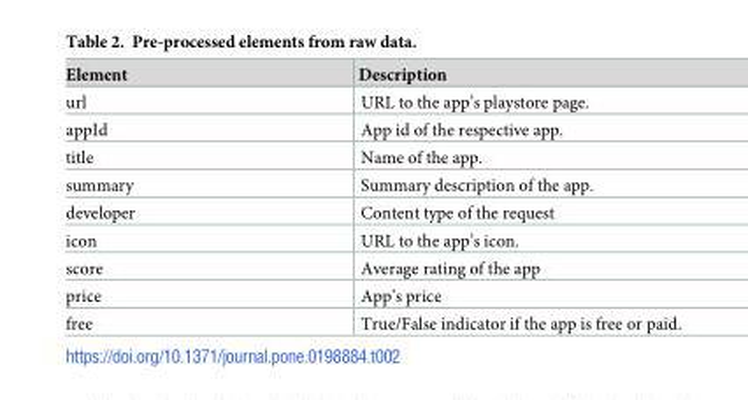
<table><thead><tr><td>Element</td><td>Description</td></tr></thead><tbody><tr><td>url</td><td>URL to the app’s playstore page.</td></tr><tr><td>appId</td><td>App id of the respective app.</td></tr><tr><td>title</td><td>Name of the app.</td></tr><tr><td>summary</td><td>Summary description of the app.</td></tr><tr><td>developer</td><td>Content type of the request</td></tr><tr><td>icon</td><td>URL to the app’s icon.</td></tr><tr><td>score</td><td>Average rating of the app</td></tr><tr><td>price</td><td>App’s price</td></tr><tr><td>free</td><td>True/False indicator if the app is free or paid.</td></tr></tbody></table>